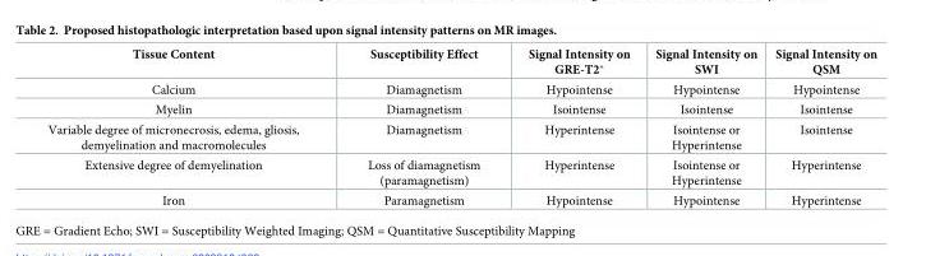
<table><thead><tr><td>Tissue Content</td><td>Susceptibility Effect</td><td>Signal Intensity on GRE-T2*</td><td>Signal Intensity on SWI</td><td>Signal Intensity on QSM</td></tr></thead><tbody><tr><td>Calcium</td><td>Diamagnetism</td><td>Hypointense</td><td>Hypointense</td><td>Hypointense</td></tr><tr><td>Myelin</td><td>Diamagnetism</td><td>Isointense</td><td>Isointense</td><td>Isointense</td></tr><tr><td>Variable degree of micronecrosis, edema, gliosis, demyelination and macromolecules</td><td>Diamagnetism</td><td>Hyperintense</td><td>Isointense or Hyperintense</td><td>Isointense</td></tr><tr><td>Extensive degree of demyelination</td><td>Loss of diamagnetism (paramagnetism)</td><td>Hyperintense</td><td>Isointense or Hyperintense</td><td>Hyperintense</td></tr><tr><td>Iron</td><td>Paramagnetism</td><td>Hypointense</td><td>Hypointense</td><td>Hyperintense</td></tr></tbody></table>